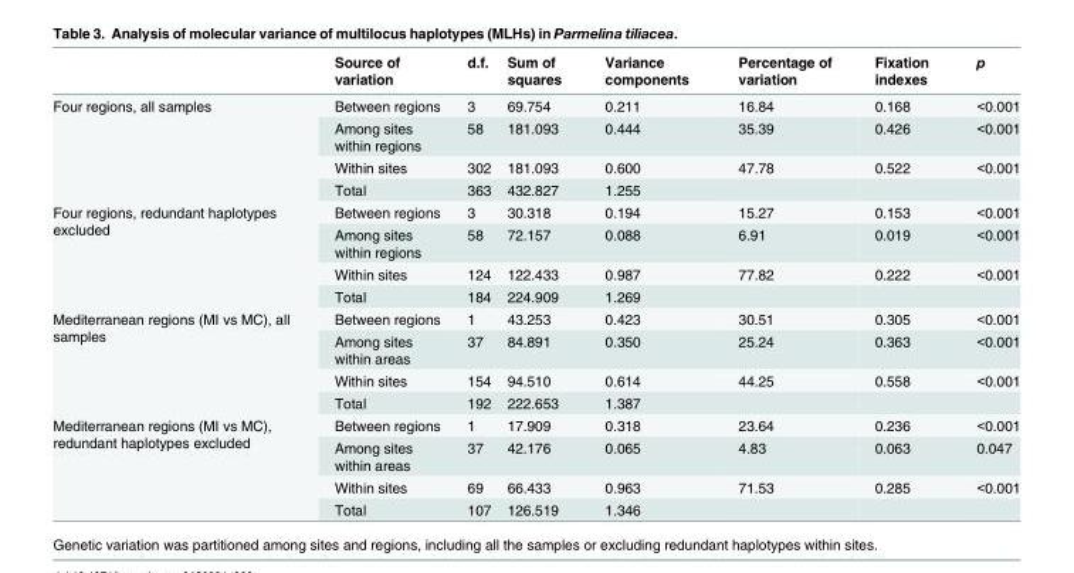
<table><thead><tr><td></td><td>Source of variation</td><td>d.f.</td><td>Sum of squares</td><td>Variance components</td><td>Percentage of variation</td><td>Fixation indexes</td><td>p</td></tr></thead><tbody><tr><td rowspan="4">Four regions, all samples</td><td>Between regions</td><td>3</td><td>69.754</td><td>0.211</td><td>16.84</td><td>0.168</td><td>&lt;0.001</td></tr><tr><td>Among sites within regions</td><td>58</td><td>181.093</td><td>0.444</td><td>35.39</td><td>0.426</td><td>&lt;0.001</td></tr><tr><td>Within sites</td><td>302</td><td>181.093</td><td>0.600</td><td>47.78</td><td>0.522</td><td>&lt;0.001</td></tr><tr><td>Total</td><td>363</td><td>432.827</td><td>1.255</td><td></td><td></td><td></td></tr><tr><td rowspan="4">Four regions, redundant haplotypes excluded</td><td>Between regions</td><td>3</td><td>30.318</td><td>0.194</td><td>15.27</td><td>0.153</td><td>&lt;0.001</td></tr><tr><td>Among sites within regions</td><td>58</td><td>72.157</td><td>0.088</td><td>6.91</td><td>0.019</td><td>&lt;0.001</td></tr><tr><td>Within sites</td><td>124</td><td>122.433</td><td>0.987</td><td>77.82</td><td>0.222</td><td>&lt;0.001</td></tr><tr><td>Total</td><td>184</td><td>224.909</td><td>1.269</td><td></td><td></td><td></td></tr><tr><td rowspan="4">Mediterranean regions (MI vs MC), all samples</td><td>Between regions</td><td>1</td><td>43.253</td><td>0.423</td><td>30.51</td><td>0.305</td><td>&lt;0.001</td></tr><tr><td>Among sites within areas</td><td>37</td><td>84.891</td><td>0.350</td><td>25.24</td><td>0.363</td><td>&lt;0.001</td></tr><tr><td>Within sites</td><td>154</td><td>94.510</td><td>0.614</td><td>44.25</td><td>0.558</td><td>&lt;0.001</td></tr><tr><td>Total</td><td>192</td><td>222.653</td><td>1.387</td><td></td><td></td><td></td></tr><tr><td rowspan="4">Mediterranean regions (MI vs MC), redundant haplotypes excluded</td><td>Between regions</td><td>1</td><td>17.909</td><td>0.318</td><td>23.64</td><td>0.236</td><td>&lt;0.001</td></tr><tr><td>Among sites within areas</td><td>37</td><td>42.176</td><td>0.065</td><td>4.83</td><td>0.063</td><td>0.047</td></tr><tr><td>Within sites</td><td>69</td><td>66.433</td><td>0.963</td><td>71.53</td><td>0.285</td><td>&lt;0.001</td></tr><tr><td>Total</td><td>107</td><td>126.519</td><td>1.346</td><td></td><td></td><td></td></tr></tbody></table>